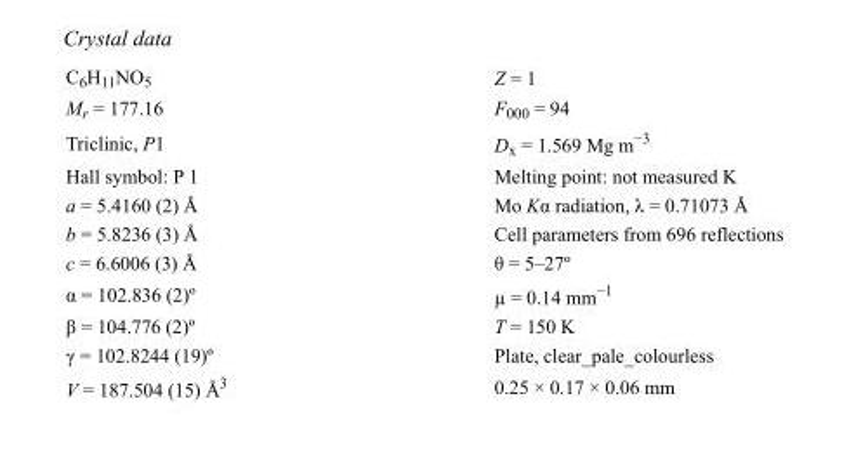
<table><tbody><tr><td>C<sub>6</sub>H<sub>11</sub>NO<sub>5</sub></td><td>Z = 1</td></tr><tr><td>M<sub>r</sub> = 177.16</td><td>F000 = 94</td></tr><tr><td>Triclinic, P1</td><td>D<sub>x</sub> = 1.569 Mg m<sup>−3</sup></td></tr><tr><td>Hall symbol: P 1</td><td>Melting point: not measured K</td></tr><tr><td>a = 5.4160 (2) Å</td><td>Mo Kα radiation, λ = 0.71073 Å</td></tr><tr><td>b = 5.8236 (3) Å</td><td>Cell parameters from 696 reflections</td></tr><tr><td>c = 6.6006 (3) Å</td><td>θ = 5–27º</td></tr><tr><td>α = 102.836 (2)º</td><td>µ = 0.14 mm<sup>−1</sup></td></tr><tr><td>β = 104.776 (2)º</td><td>T = 150 K</td></tr><tr><td>γ = 102.8244 (19)º</td><td>Plate, clear_pale_colourless</td></tr><tr><td>V = 187.504 (15) Å3</td><td>0.25 × 0.17 × 0.06 mm</td></tr></tbody></table>